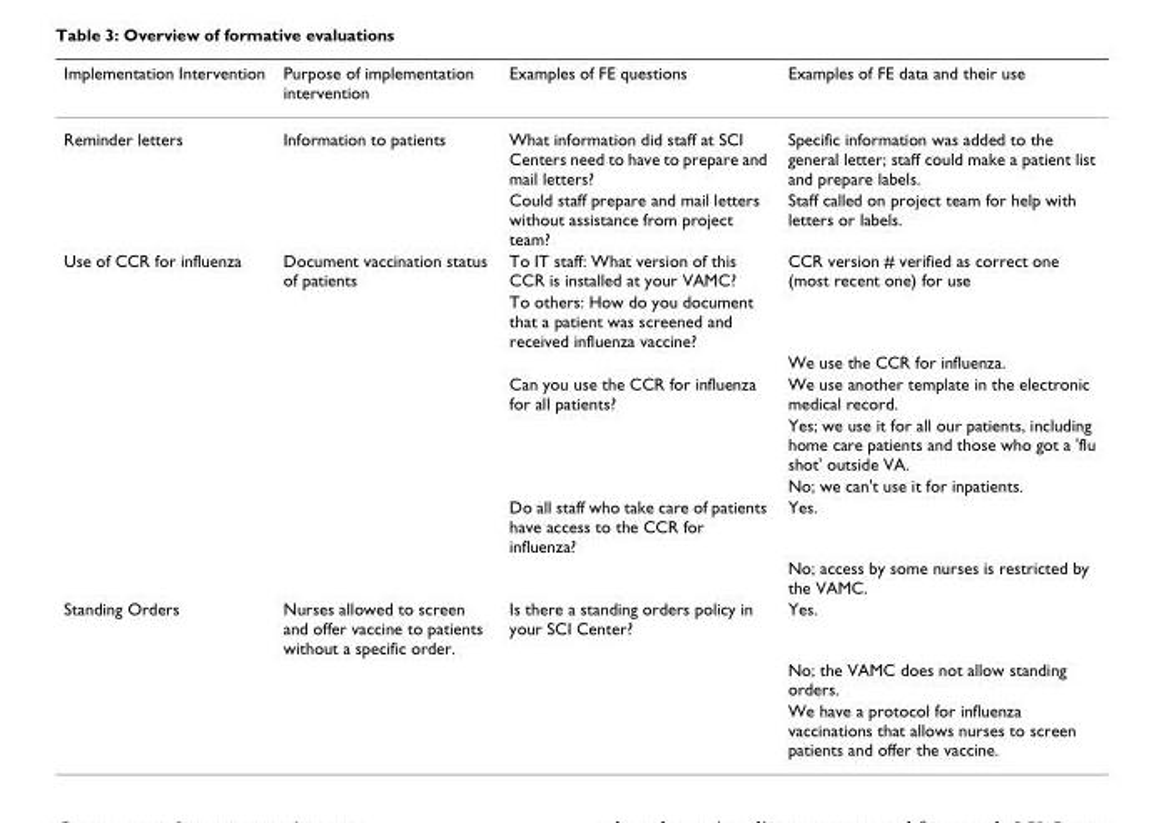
<table><thead><tr><td>Implementation Intervention</td><td>Purpose of implementation intervention</td><td>Examples of FE questions</td><td>Examples of FE data and their use</td></tr></thead><tbody><tr><td rowspan="2">Reminder letters</td><td>Information to patients</td><td>What information did staff at SCI Centers need to have to prepare and mail letters?</td><td>Specific information was added to the general letter; staff could make a patient list and prepare labels.</td></tr><tr><td></td><td>Could staff prepare and mail letters without assistance from project team?</td><td>Staff called on project team for help with letters or labels.</td></tr><tr><td rowspan="8">Use of CCR for influenza</td><td>Document vaccination status of patients</td><td>To IT staff: What version of this CCR is installed at your VAMC?</td><td>CCR version # verified as correct one (most recent one) for use</td></tr><tr><td></td><td>To others: How do you document that a patient was screened and received influenza vaccine?</td><td></td></tr><tr><td></td><td></td><td>We use the CCR for influenza.</td></tr><tr><td></td><td>Can you use the CCR for influenza for all patients?</td><td>We use another template in the electronic medical record.</td></tr><tr><td></td><td></td><td>Yes; we use it for all our patients, including home care patients and those who got a &#x27;flu shot&#x27; outside VA.</td></tr><tr><td></td><td></td><td>No; we can&#x27;t use it for inpatients.</td></tr><tr><td></td><td>Do all staff who take care of patients have access to the CCR for influenza?</td><td>Yes.</td></tr><tr><td></td><td></td><td>No; access by some nurses is restricted by the VAMC.</td></tr><tr><td rowspan="3">Standing Orders</td><td>Nurses allowed to screen and offer vaccine to patients without a specific order.</td><td>Is there a standing orders policy in your SCI Center?</td><td>Yes.</td></tr><tr><td></td><td></td><td>No; the VAMC does not allow standing orders.</td></tr><tr><td></td><td></td><td>We have a protocol for influenza vaccinations that allows nurses to screen patients and offer the vaccine.</td></tr></tbody></table>